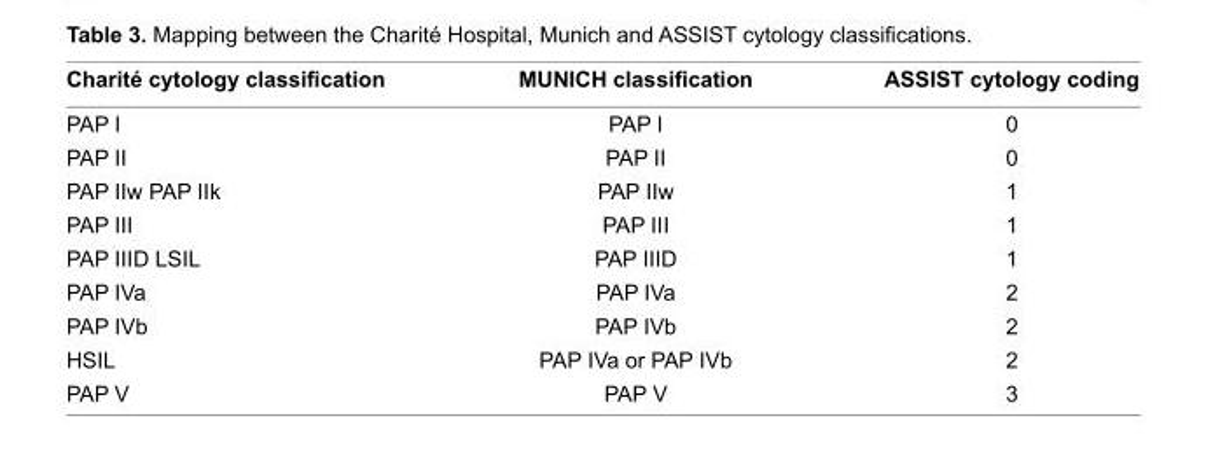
<table><thead><tr><td>Charité cytology classifi cation</td><td>MUNICH classifi cation</td><td>ASSIST cytology coding</td></tr></thead><tbody><tr><td>PAP I</td><td>PAP I</td><td>0</td></tr><tr><td>PAP II</td><td>PAP II</td><td>0</td></tr><tr><td>PAP IIw PAP IIk</td><td>PAP IIw</td><td>1</td></tr><tr><td>PAP III</td><td>PAP III</td><td>1</td></tr><tr><td>PAP IIID LSIL</td><td>PAP IIID</td><td>1</td></tr><tr><td>PAP IVa</td><td>PAP IVa</td><td>2</td></tr><tr><td>PAP IVb</td><td>PAP IVb</td><td>2</td></tr><tr><td>HSIL</td><td>PAP IVa or PAP IVb</td><td>2</td></tr><tr><td>PAP V</td><td>PAP V</td><td>3</td></tr></tbody></table>